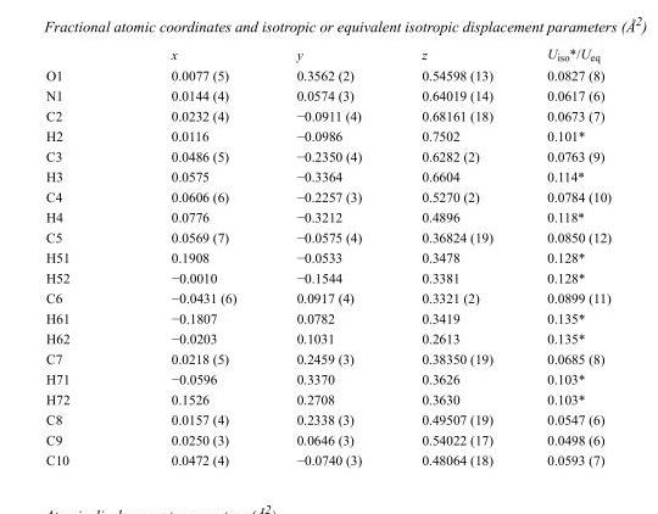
<table><thead><tr><td></td><td>x</td><td>y</td><td>z</td><td>U<sub>iso</sub>*/U<sub>eq</sub></td></tr></thead><tbody><tr><td>O1</td><td>0.0077 (5)</td><td>0.3562 (2)</td><td>0.54598 (13)</td><td>0.0827 (8)</td></tr><tr><td>N1</td><td>0.0144 (4)</td><td>0.0574 (3)</td><td>0.64019 (14)</td><td>0.0617 (6)</td></tr><tr><td>C2</td><td>0.0232 (4)</td><td>−0.0911 (4)</td><td>0.68161 (18)</td><td>0.0673 (7)</td></tr><tr><td>H2</td><td>0.0116</td><td>−0.0986</td><td>0.7502</td><td>0.101*</td></tr><tr><td>C3</td><td>0.0486 (5)</td><td>−0.2350 (4)</td><td>0.6282 (2)</td><td>0.0763 (9)</td></tr><tr><td>H3</td><td>0.0575</td><td>−0.3364</td><td>0.6604</td><td>0.114*</td></tr><tr><td>C4</td><td>0.0606 (6)</td><td>−0.2257 (3)</td><td>0.5270 (2)</td><td>0.0784 (10)</td></tr><tr><td>H4</td><td>0.0776</td><td>−0.3212</td><td>0.4896</td><td>0.118*</td></tr><tr><td>C5</td><td>0.0569 (7)</td><td>−0.0575 (4)</td><td>0.36824 (19)</td><td>0.0850 (12)</td></tr><tr><td>H51</td><td>0.1908</td><td>−0.0533</td><td>0.3478</td><td>0.128*</td></tr><tr><td>H52</td><td>−0.0010</td><td>−0.1544</td><td>0.3381</td><td>0.128*</td></tr><tr><td>C6</td><td>−0.0431 (6)</td><td>0.0917 (4)</td><td>0.3321 (2)</td><td>0.0899 (11)</td></tr><tr><td>H61</td><td>−0.1807</td><td>0.0782</td><td>0.3419</td><td>0.135*</td></tr><tr><td>H62</td><td>−0.0203</td><td>0.1031</td><td>0.2613</td><td>0.135*</td></tr><tr><td>C7</td><td>0.0218 (5)</td><td>0.2459 (3)</td><td>0.38350 (19)</td><td>0.0685 (8)</td></tr><tr><td>H71</td><td>−0.0596</td><td>0.3370</td><td>0.3626</td><td>0.103*</td></tr><tr><td>H72</td><td>0.1526</td><td>0.2708</td><td>0.3630</td><td>0.103*</td></tr><tr><td>C8</td><td>0.0157 (4)</td><td>0.2338 (3)</td><td>0.49507 (19)</td><td>0.0547 (6)</td></tr><tr><td>C9</td><td>0.0250 (3)</td><td>0.0646 (3)</td><td>0.54022 (17)</td><td>0.0498 (6)</td></tr><tr><td>C10</td><td>0.0472 (4)</td><td>−0.0740 (3)</td><td>0.48064 (18)</td><td>0.0593 (7)</td></tr></tbody></table>